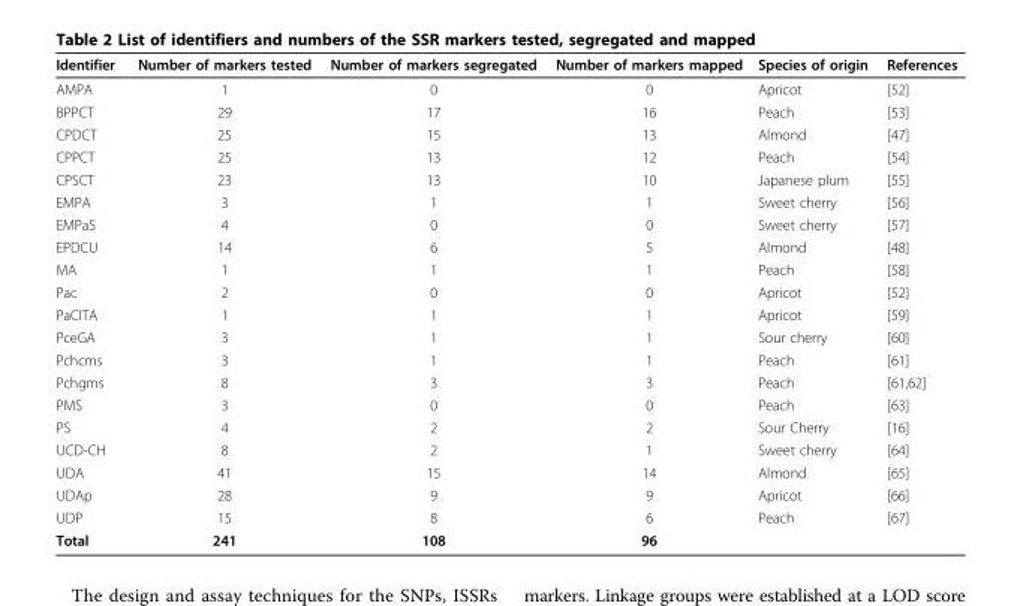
<table><thead><tr><td>Identifier</td><td>Number of markers tested</td><td>Number of markers segregated</td><td>Number of markers mapped</td><td>Species of origin</td><td>References</td></tr></thead><tbody><tr><td>AMPA</td><td>1</td><td>0</td><td>0</td><td>Apricot</td><td>[52]</td></tr><tr><td>BPPCT</td><td>29</td><td>17</td><td>16</td><td>Peach</td><td>[53]</td></tr><tr><td>CPDCT</td><td>25</td><td>15</td><td>13</td><td>Almond</td><td>[47]</td></tr><tr><td>CPPCT</td><td>25</td><td>13</td><td>12</td><td>Peach</td><td>[54]</td></tr><tr><td>CPSCT</td><td>23</td><td>13</td><td>10</td><td>Japanese plum</td><td>[55]</td></tr><tr><td>EMPA</td><td>3</td><td>1</td><td>1</td><td>Sweet cherry</td><td>[56]</td></tr><tr><td>EMPaS</td><td>4</td><td>0</td><td>0</td><td>Sweet cherry</td><td>[57]</td></tr><tr><td>EPDCU</td><td>14</td><td>6</td><td>5</td><td>Almond</td><td>[48]</td></tr><tr><td>MA</td><td>1</td><td>1</td><td>1</td><td>Peach</td><td>[58]</td></tr><tr><td>Pac</td><td>2</td><td>0</td><td>0</td><td>Apricot</td><td>[52]</td></tr><tr><td>PaCITA</td><td>1</td><td>1</td><td>1</td><td>Apricot</td><td>[59]</td></tr><tr><td>PceGA</td><td>3</td><td>1</td><td>1</td><td>Sour cherry</td><td>[60]</td></tr><tr><td>Pchcms</td><td>3</td><td>1</td><td>1</td><td>Peach</td><td>[61]</td></tr><tr><td>Pchgms</td><td>8</td><td>3</td><td>3</td><td>Peach</td><td>[61,62]</td></tr><tr><td>PMS</td><td>3</td><td>0</td><td>0</td><td>Peach</td><td>[63]</td></tr><tr><td>PS</td><td>4</td><td>2</td><td>2</td><td>Sour Cherry</td><td>[16]</td></tr><tr><td>UCD-CH</td><td>8</td><td>2</td><td>1</td><td>Sweet cherry</td><td>[64]</td></tr><tr><td>UDA</td><td>41</td><td>15</td><td>14</td><td>Almond</td><td>[65]</td></tr><tr><td>UDAp</td><td>28</td><td>9</td><td>9</td><td>Apricot</td><td>[66]</td></tr><tr><td>UDP</td><td>15</td><td>8</td><td>6</td><td>Peach</td><td>[67]</td></tr><tr><td>Total</td><td>241</td><td>108</td><td>96</td><td></td><td></td></tr></tbody></table>